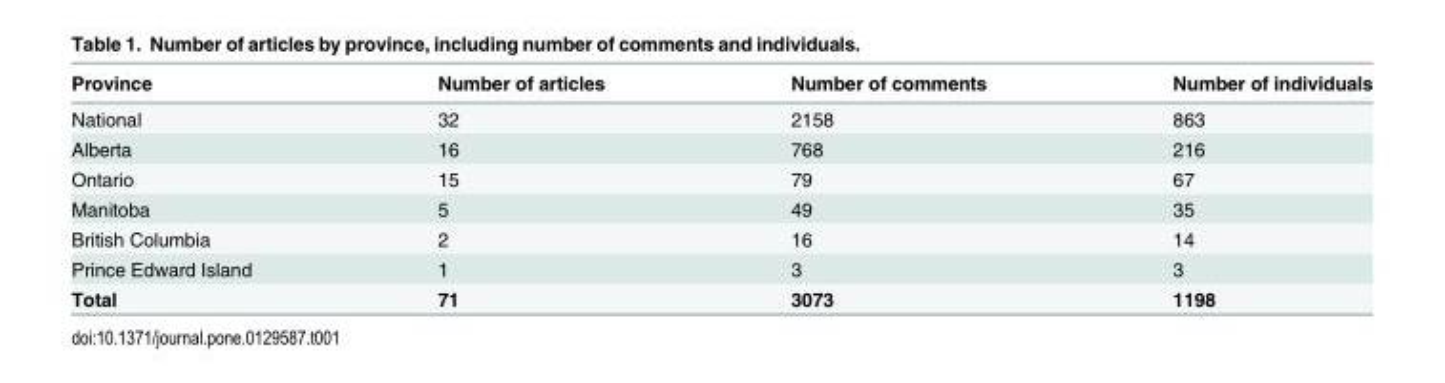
<table><thead><tr><td>Province</td><td>Number of articles</td><td>Number of comments</td><td>Number of individuals</td></tr></thead><tbody><tr><td>National</td><td>32</td><td>2158</td><td>863</td></tr><tr><td>Alberta</td><td>16</td><td>768</td><td>216</td></tr><tr><td>Ontario</td><td>15</td><td>79</td><td>67</td></tr><tr><td>Manitoba</td><td>5</td><td>49</td><td>35</td></tr><tr><td>British Columbia</td><td>2</td><td>16</td><td>14</td></tr><tr><td>Prince Edward Island</td><td>1</td><td>3</td><td>3</td></tr><tr><td>Total</td><td>71</td><td>3073</td><td>1198</td></tr></tbody></table>